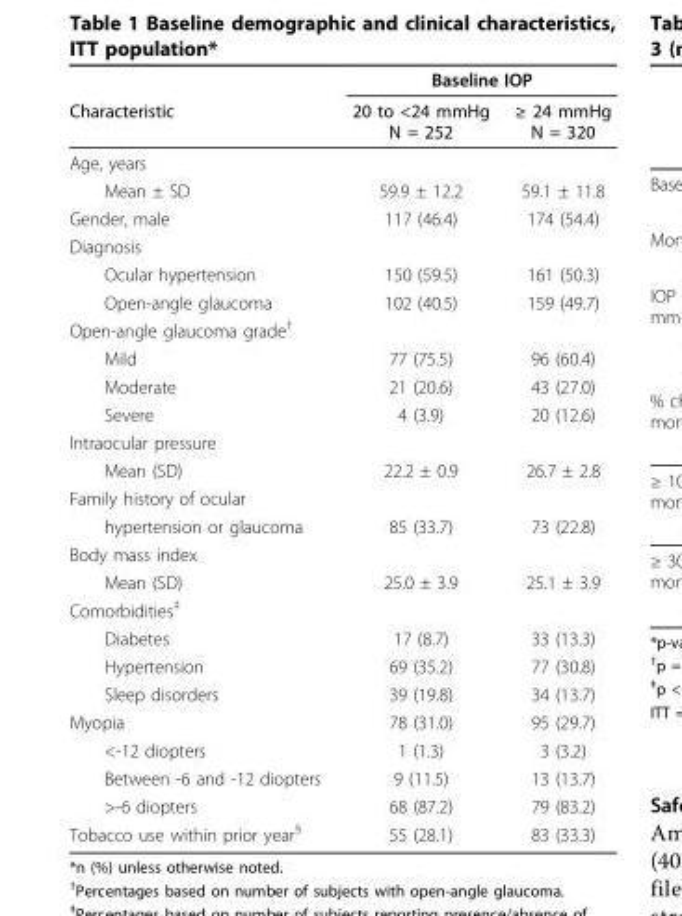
<table><thead><tr><td rowspan="2">Characteristic</td><td colspan="2">Baseline IOP</td></tr><tr><td>20 to &lt;24 mmHg N = 252</td><td>≥ 24 mmHg N = 320</td></tr></thead><tbody><tr><td colspan="3">Age, years</td></tr><tr><td>Mean ± SD</td><td>59.9 ± 12.2</td><td>59.1 ± 11.8</td></tr><tr><td>Gender, male</td><td>117 (46.4)</td><td>174 (54.4)</td></tr><tr><td colspan="3">Diagnosis</td></tr><tr><td>Ocular hypertension</td><td>150 (59.5)</td><td>161 (50.3)</td></tr><tr><td>Open-angle glaucoma</td><td>102 (40.5)</td><td>159 (49.7)</td></tr><tr><td colspan="3">Open-angle glaucoma grade<sup>†</sup></td></tr><tr><td>Mild</td><td>77 (75.5)</td><td>96 (60.4)</td></tr><tr><td>Moderate</td><td>21 (20.6)</td><td>43 (27.0)</td></tr><tr><td>Severe</td><td>4 (3.9)</td><td>20 (12.6)</td></tr><tr><td colspan="3">Intraocular pressure</td></tr><tr><td>Mean (SD)</td><td>22.2 ± 0.9</td><td>26.7 ± 2.8</td></tr><tr><td colspan="3">Family history of ocular</td></tr><tr><td>hypertension or glaucoma</td><td>85 (33.7)</td><td>73 (22.8)</td></tr><tr><td colspan="3">Body mass index</td></tr><tr><td>Mean (SD)</td><td>25.0 ± 3.9</td><td>25.1 ± 3.9</td></tr><tr><td colspan="3">Comorbidities<sup>‡</sup></td></tr><tr><td>Diabetes</td><td>17 (8.7)</td><td>33 (13.3)</td></tr><tr><td>Hypertension</td><td>69 (35.2)</td><td>77 (30.8)</td></tr><tr><td>Sleep disorders</td><td>39 (19.8)</td><td>34 (13.7)</td></tr><tr><td>Myopia</td><td>78 (31.0)</td><td>95 (29.7)</td></tr><tr><td>&lt;-12 diopters</td><td>1 (1.3)</td><td>3 (3.2)</td></tr><tr><td>Between -6 and -12 diopters</td><td>9 (11.5)</td><td>13 (13.7)</td></tr><tr><td>&gt;-6 diopters</td><td>68 (87.2)</td><td>79 (83.2)</td></tr><tr><td>Tobacco use within prior year<sup>§</sup></td><td>55 (28.1)</td><td>83 (33.3)</td></tr></tbody></table>